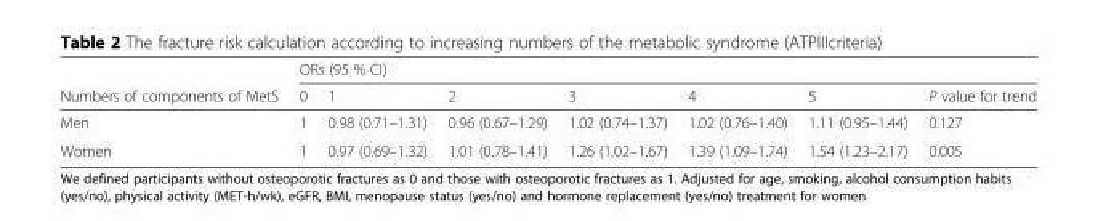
<table><thead><tr><td rowspan="2">Numbers of components of MetS</td><td colspan="7">ORs (95 % CI)</td></tr><tr><td>0</td><td>1</td><td>2</td><td>3</td><td>4</td><td>5</td><td>P value for trend</td></tr></thead><tbody><tr><td>Men</td><td>1</td><td>0.98 (0.71–1.31)</td><td>0.96 (0.67–1.29)</td><td>1.02 (0.74–1.37)</td><td>1.02 (0.76–1.40)</td><td>1.11 (0.95–1.44)</td><td>0.127</td></tr><tr><td>Women</td><td>1</td><td>0.97 (0.69–1.32)</td><td>1.01 (0.78–1.41)</td><td>1.26 (1.02–1.67)</td><td>1.39 (1.09–1.74)</td><td>1.54 (1.23–2.17)</td><td>0.005</td></tr></tbody></table>